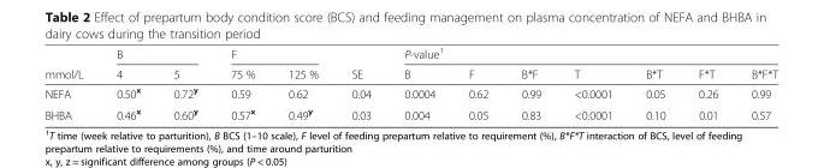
<table><thead><tr><td rowspan="2">mmol/L</td><td colspan="2">B</td><td colspan="2">F</td><td rowspan="2">SE</td><td colspan="7">P-value<sup>1</sup></td></tr><tr><td>4</td><td>5</td><td>75 %</td><td>125 %</td><td>B</td><td>F</td><td>B*F</td><td>T</td><td>B*T</td><td>F*T</td><td>B*F*T</td></tr></thead><tbody><tr><td>NEFA</td><td>0.50<sup>x</sup></td><td>0.72<sup>y</sup></td><td>0.59</td><td>0.62</td><td>0.04</td><td>0.0004</td><td>0.62</td><td>0.99</td><td>&lt;0.0001</td><td>0.05</td><td>0.26</td><td>0.99</td></tr><tr><td>BHBA</td><td>0.46<sup>x</sup></td><td>0.60<sup>y</sup></td><td>0.57<sup>x</sup></td><td>0.49<sup>y</sup></td><td>0.03</td><td>0.004</td><td>0.05</td><td>0.83</td><td>&lt;0.0001</td><td>0.10</td><td>0.01</td><td>0.57</td></tr></tbody></table>